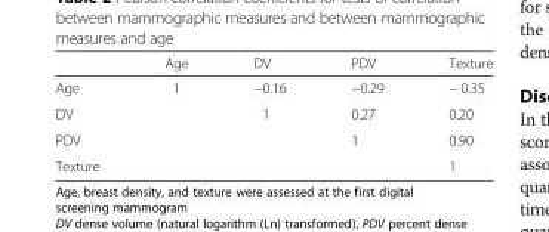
<table><thead><tr><td></td><td>Age</td><td>DV</td><td>PDV</td><td>Texture</td></tr></thead><tbody><tr><td>Age</td><td>1</td><td>−0.16</td><td>−0.29</td><td>− 0.35</td></tr><tr><td>DV</td><td></td><td>1</td><td>0.27</td><td>0.20</td></tr><tr><td>PDV</td><td></td><td></td><td>1</td><td>0.90</td></tr><tr><td>Texture</td><td></td><td></td><td></td><td>1</td></tr></tbody></table>